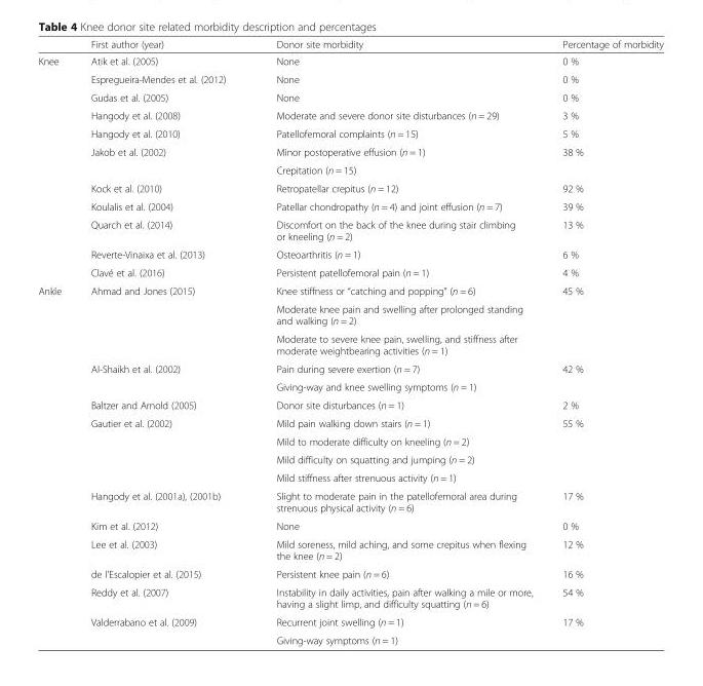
<table><thead><tr><td></td><td>First author (year)</td><td>Donor site morbidity</td><td>Percentage of morbidity</td></tr></thead><tbody><tr><td rowspan="12">Knee</td><td>Atik et al. (2005)</td><td>None</td><td>0 %</td></tr><tr><td>Espregueira-Mendes et al. (2012)</td><td>None</td><td>0 %</td></tr><tr><td>Gudas et al. (2005)</td><td>None</td><td>0 %</td></tr><tr><td>Hangody et al. (2008)</td><td>Moderate and severe donor site disturbances (n = 29)</td><td>3 %</td></tr><tr><td>Hangody et al. (2010)</td><td>Patellofemoral complaints (n = 15)</td><td>5 %</td></tr><tr><td rowspan="2">Jakob et al. (2002)</td><td>Minor postoperative effusion (n = 1)</td><td rowspan="2">38 %</td></tr><tr><td>Crepitation (n = 15)</td></tr><tr><td>Kock et al. (2010)</td><td>Retropatellar crepitus (n = 12)</td><td>92 %</td></tr><tr><td>Koulalis et al. (2004)</td><td>Patellar chondropathy (n = 4) and joint effusion (n = 7)</td><td>39 %</td></tr><tr><td>Quarch et al. (2014)</td><td>Discomfort on the back of the knee during stair climbing or kneeling (n = 2)</td><td>13 %</td></tr><tr><td>Reverte-Vinaixa et al. (2013)</td><td>Osteoarthritis (n = 1)</td><td>6 %</td></tr><tr><td>Clavé et al. (2016)</td><td>Persistent patellofemoral pain (n = 1)</td><td>4 %</td></tr><tr><td rowspan="17">Ankle</td><td rowspan="3">Ahmad and Jones (2015)</td><td>Knee stiffness or “catching and popping” (n = 6)</td><td rowspan="3">45 %</td></tr><tr><td>Moderate knee pain and swelling after prolonged standing and walking (n = 2)</td></tr><tr><td>Moderate to severe knee pain, swelling, and stiffness after moderate weightbearing activities (n = 1)</td></tr><tr><td rowspan="2">Al-Shaikh et al. (2002)</td><td>Pain during severe exertion (n = 7)</td><td rowspan="2">42 %</td></tr><tr><td>Giving-way and knee swelling symptoms (n = 1)</td></tr><tr><td>Baltzer and Arnold (2005)</td><td>Donor site disturbances (n = 1)</td><td>2 %</td></tr><tr><td rowspan="4">Gautier et al. (2002)</td><td>Mild pain walking down stairs (n = 1)</td><td rowspan="4">55 %</td></tr><tr><td>Mild to moderate difficulty on kneeling (n = 2)</td></tr><tr><td>Mild difficulty on squatting and jumping (n = 2)</td></tr><tr><td>Mild stiffness after strenuous activity (n = 1)</td></tr><tr><td>Hangody et al. (2001a), (2001b)</td><td>Slight to moderate pain in the patellofemoral area during strenuous physical activity (n = 6)</td><td>17 %</td></tr><tr><td>Kim et al. (2012)</td><td>None</td><td>0 %</td></tr><tr><td>Lee et al. (2003)</td><td>Mild soreness, mild aching, and some crepitus when flexing the knee (n = 2)</td><td>12 %</td></tr><tr><td>de l&#x27;Escalopier et al. (2015)</td><td>Persistent knee pain (n = 6)</td><td>16 %</td></tr><tr><td>Reddy et al. (2007)</td><td>Instability in daily activities, pain after walking a mile or more, having a slight limp, and difficulty squatting (n = 6)</td><td>54 %</td></tr><tr><td rowspan="2">Valderrabano et al. (2009)</td><td>Recurrent joint swelling (n = 1)</td><td rowspan="2">17 %</td></tr><tr><td>Giving-way symptoms (n = 1)</td></tr></tbody></table>